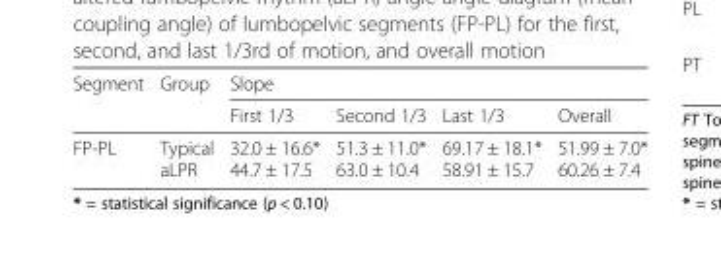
<table><thead><tr><td rowspan="2">Segment</td><td rowspan="2">Group</td><td colspan="4">Slope</td></tr><tr><td>First 1/3</td><td>Second 1/3</td><td>Last 1/3</td><td>Overall</td></tr></thead><tbody><tr><td>FP-PL</td><td>Typical aLPR</td><td>32.0 ± 16.6* 44.7 ± 17.5</td><td>51.3 ± 11.0* 63.0 ± 10.4</td><td>69.17 ± 18.1* 58.91 ± 15.7</td><td>51.99 ± 7.0* 60.26 ± 7.4</td></tr></tbody></table>